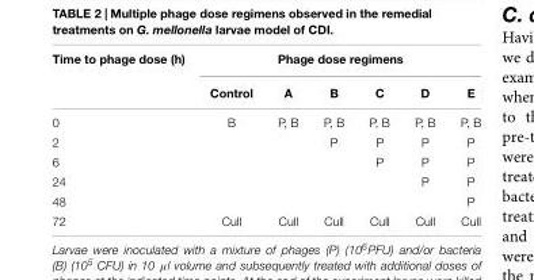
<table><thead><tr><td rowspan="2">Time to phage dose (h)</td><td colspan="6">Phage dose regimens</td></tr><tr><td>Control</td><td>A</td><td>B</td><td>C</td><td>D</td><td>E</td></tr></thead><tbody><tr><td>0</td><td>B</td><td>P, B</td><td>P, B</td><td>P, B</td><td>P, B</td><td>P, B</td></tr><tr><td>2</td><td></td><td></td><td>P</td><td>P</td><td>P</td><td>P</td></tr><tr><td>6</td><td></td><td></td><td></td><td>P</td><td>P</td><td>P</td></tr><tr><td>24</td><td></td><td></td><td></td><td></td><td>P</td><td>P</td></tr><tr><td>48</td><td></td><td></td><td></td><td></td><td></td><td>P</td></tr><tr><td>72</td><td>Cull</td><td>Cull</td><td>Cull</td><td>Cull</td><td>Cull</td><td>Cull</td></tr></tbody></table>